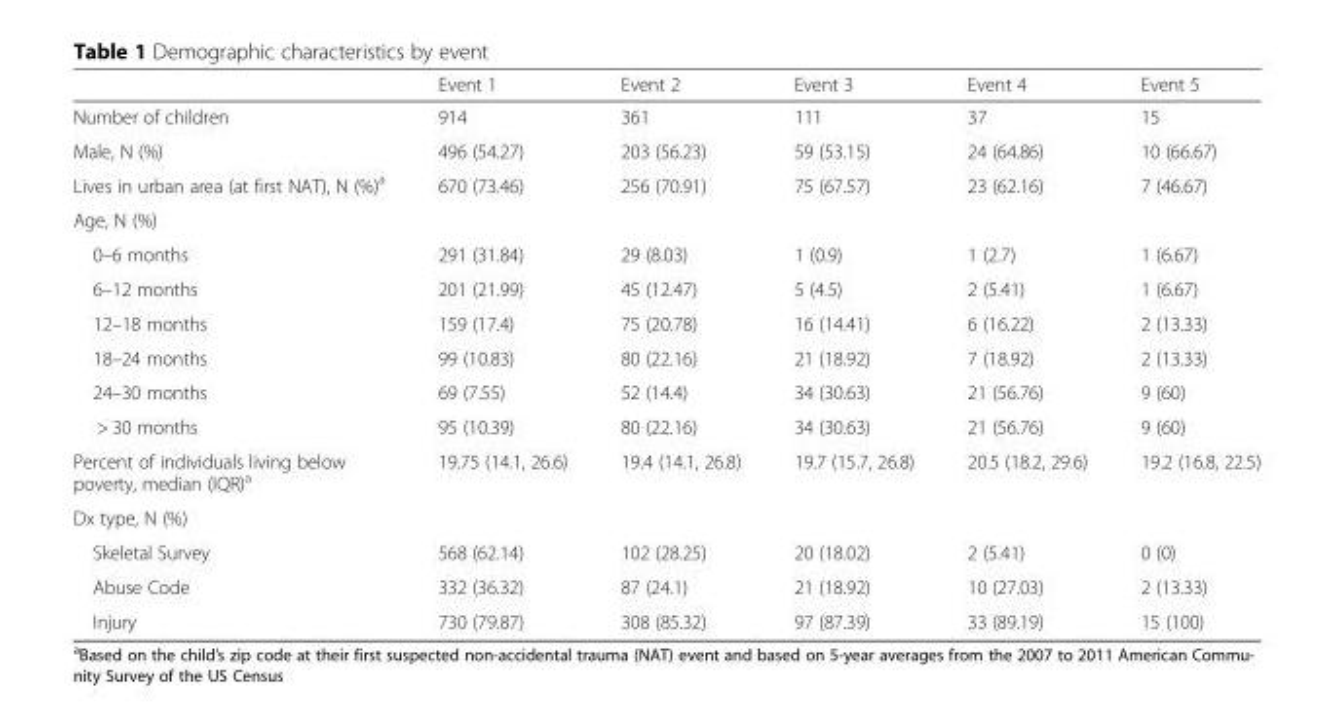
<table><thead><tr><td></td><td>Event 1</td><td>Event 2</td><td>Event 3</td><td>Event 4</td><td>Event 5</td></tr></thead><tbody><tr><td>Number of children</td><td>914</td><td>361</td><td>111</td><td>37</td><td>15</td></tr><tr><td>Male, N (%)</td><td>496 (54.27)</td><td>203 (56.23)</td><td>59 (53.15)</td><td>24 (64.86)</td><td>10 (66.67)</td></tr><tr><td>Lives in urban area (at first NAT), N (%)<sup>a</sup></td><td>670 (73.46)</td><td>256 (70.91)</td><td>75 (67.57)</td><td>23 (62.16)</td><td>7 (46.67)</td></tr><tr><td colspan="6">Age, N (%)</td></tr><tr><td>0–6 months</td><td>291 (31.84)</td><td>29 (8.03)</td><td>1 (0.9)</td><td>1 (2.7)</td><td>1 (6.67)</td></tr><tr><td>6–12 months</td><td>201 (21.99)</td><td>45 (12.47)</td><td>5 (4.5)</td><td>2 (5.41)</td><td>1 (6.67)</td></tr><tr><td>12–18 months</td><td>159 (17.4)</td><td>75 (20.78)</td><td>16 (14.41)</td><td>6 (16.22)</td><td>2 (13.33)</td></tr><tr><td>18–24 months</td><td>99 (10.83)</td><td>80 (22.16)</td><td>21 (18.92)</td><td>7 (18.92)</td><td>2 (13.33)</td></tr><tr><td>24–30 months</td><td>69 (7.55)</td><td>52 (14.4)</td><td>34 (30.63)</td><td>21 (56.76)</td><td>9 (60)</td></tr><tr><td>&gt; 30 months</td><td>95 (10.39)</td><td>80 (22.16)</td><td>34 (30.63)</td><td>21 (56.76)</td><td>9 (60)</td></tr><tr><td>Percent of individuals living below poverty, median (IQR)<sup>a</sup></td><td>19.75 (14.1, 26.6)</td><td>19.4 (14.1, 26.8)</td><td>19.7 (15.7, 26.8)</td><td>20.5 (18.2, 29.6)</td><td>19.2 (16.8, 22.5)</td></tr><tr><td colspan="6">Dx type, N (%)</td></tr><tr><td>Skeletal Survey</td><td>568 (62.14)</td><td>102 (28.25)</td><td>20 (18.02)</td><td>2 (5.41)</td><td>0 (0)</td></tr><tr><td>Abuse Code</td><td>332 (36.32)</td><td>87 (24.1)</td><td>21 (18.92)</td><td>10 (27.03)</td><td>2 (13.33)</td></tr><tr><td>Injury</td><td>730 (79.87)</td><td>308 (85.32)</td><td>97 (87.39)</td><td>33 (89.19)</td><td>15 (100)</td></tr></tbody></table>